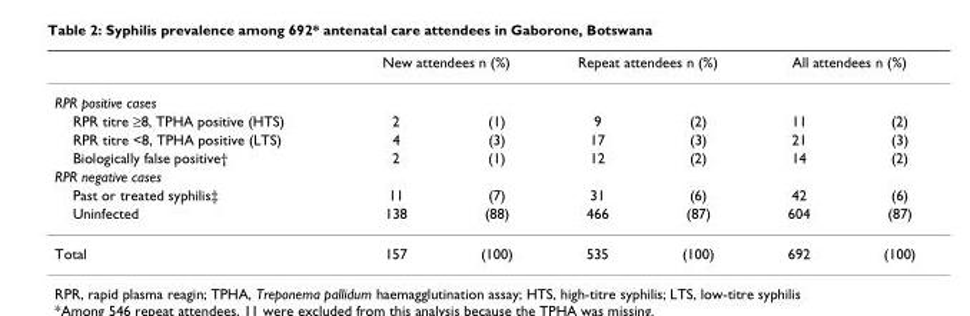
<table><thead><tr><td rowspan="2">RPR positive cases</td><td colspan="2">New attendees n (%)</td><td colspan="2">Repeat attendees n (%)</td><td colspan="2">All attendees n (%)</td></tr><tr><td></td><td></td><td></td><td></td><td></td><td></td></tr></thead><tbody><tr><td>RPR titre ≥8, TPHA positive (HTS)</td><td>2</td><td>(1)</td><td>9</td><td>(2)</td><td>11</td><td>(2)</td></tr><tr><td>RPR titre &lt;8, TPHA positive (LTS)</td><td>4</td><td>(3)</td><td>17</td><td>(3)</td><td>21</td><td>(3)</td></tr><tr><td>Biologically false positive†</td><td>2</td><td>(1)</td><td>12</td><td>(2)</td><td>14</td><td>(2)</td></tr><tr><td colspan="7">RPR negative cases</td></tr><tr><td>Past or treated syphilis‡</td><td>11</td><td>(7)</td><td>31</td><td>(6)</td><td>42</td><td>(6)</td></tr><tr><td>Uninfected</td><td>138</td><td>(88)</td><td>466</td><td>(87)</td><td>604</td><td>(87)</td></tr><tr><td>Total</td><td>157</td><td>(100)</td><td>535</td><td>(100)</td><td>692</td><td>(100)</td></tr></tbody></table>